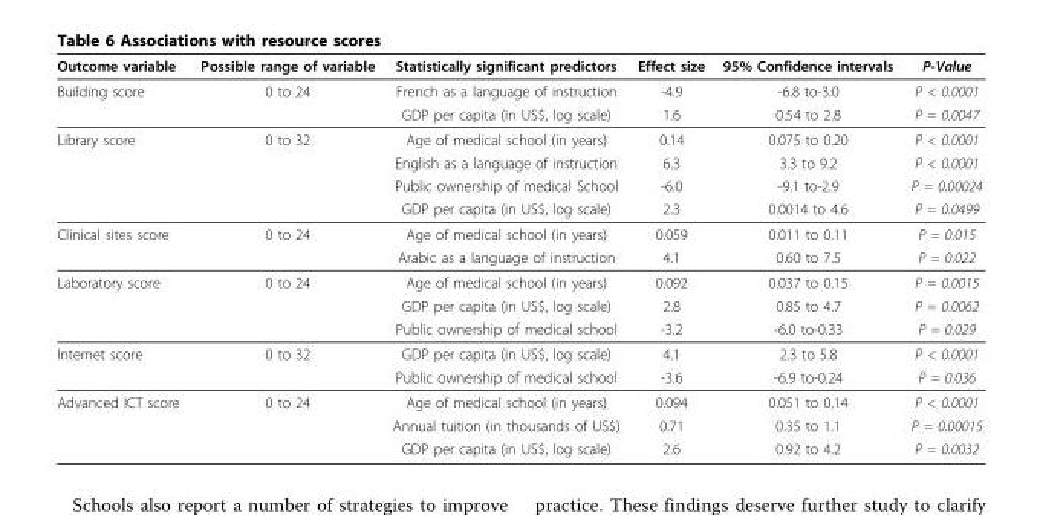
<table><thead><tr><td>Outcome variable</td><td>Possible range of variable</td><td>Statistically significant predictors</td><td>Effect size</td><td>95% Confidence intervals</td><td>P-Value</td></tr></thead><tbody><tr><td rowspan="2">Building score</td><td>0 to 24</td><td>French as a language of instruction</td><td>-4.9</td><td>-6.8 to-3.0</td><td>P &lt; 0.0001</td></tr><tr><td></td><td>GDP per capita (in US$, log scale)</td><td>1.6</td><td>0.54 to 2.8</td><td>P = 0.0047</td></tr><tr><td rowspan="4">Library score</td><td>0 to 32</td><td>Age of medical school (in years)</td><td>0.14</td><td>0.075 to 0.20</td><td>P &lt; 0.0001</td></tr><tr><td></td><td>English as a language of instruction</td><td>6.3</td><td>3.3 to 9.2</td><td>P &lt; 0.0001</td></tr><tr><td></td><td>Public ownership of medical School</td><td>-6.0</td><td>-9.1 to-2.9</td><td>P = 0.00024</td></tr><tr><td></td><td>GDP per capita (in US$, log scale)</td><td>2.3</td><td>0.0014 to 4.6</td><td>P = 0.0499</td></tr><tr><td rowspan="2">Clinical sites score</td><td>0 to 24</td><td>Age of medical school (in years)</td><td>0.059</td><td>0.011 to 0.11</td><td>P = 0.015</td></tr><tr><td></td><td>Arabic as a language of instruction</td><td>4.1</td><td>0.60 to 7.5</td><td>P = 0.022</td></tr><tr><td rowspan="3">Laboratory score</td><td>0 to 24</td><td>Age of medical school (in years)</td><td>0.092</td><td>0.037 to 0.15</td><td>P = 0.0015</td></tr><tr><td></td><td>GDP per capita (in US$, log scale)</td><td>2.8</td><td>0.85 to 4.7</td><td>P = 0.0062</td></tr><tr><td></td><td>Public ownership of medical school</td><td>-3.2</td><td>-6.0 to-0.33</td><td>P = 0.029</td></tr><tr><td rowspan="2">Internet score</td><td>0 to 32</td><td>GDP per capita (in US$, log scale)</td><td>4.1</td><td>2.3 to 5.8</td><td>P &lt; 0.0001</td></tr><tr><td></td><td>Public ownership of medical school</td><td>-3.6</td><td>-6.9 to-0.24</td><td>P = 0.036</td></tr><tr><td rowspan="3">Advanced ICT score</td><td>0 to 24</td><td>Age of medical school (in years)</td><td>0.094</td><td>0.051 to 0.14</td><td>P &lt; 0.0001</td></tr><tr><td></td><td>Annual tuition (in thousands of US$)</td><td>0.71</td><td>0.35 to 1.1</td><td>P = 0.00015</td></tr><tr><td></td><td>GDP per capita (in US$, log scale)</td><td>2.6</td><td>0.92 to 4.2</td><td>P = 0.0032</td></tr></tbody></table>